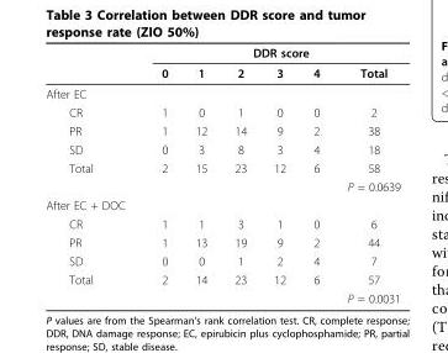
<table><thead><tr><td rowspan="2"></td><td colspan="6">DDR score</td></tr><tr><td>0</td><td>1</td><td>2</td><td>3</td><td>4</td><td>Total</td></tr></thead><tbody><tr><td colspan="7">After EC</td></tr><tr><td>CR</td><td>1</td><td>0</td><td>1</td><td>0</td><td>0</td><td>2</td></tr><tr><td>PR</td><td>1</td><td>12</td><td>14</td><td>9</td><td>2</td><td>38</td></tr><tr><td>SD</td><td>0</td><td>3</td><td>8</td><td>3</td><td>4</td><td>18</td></tr><tr><td rowspan="2">Total</td><td>2</td><td>15</td><td>23</td><td>12</td><td>6</td><td>58</td></tr><tr><td></td><td></td><td></td><td></td><td></td><td>P = 0.0639</td></tr><tr><td colspan="7">After EC + DOC</td></tr><tr><td>CR</td><td>1</td><td>1</td><td>3</td><td>1</td><td>0</td><td>6</td></tr><tr><td>PR</td><td>1</td><td>13</td><td>19</td><td>9</td><td>2</td><td>44</td></tr><tr><td>SD</td><td>0</td><td>0</td><td>1</td><td>2</td><td>4</td><td>7</td></tr><tr><td rowspan="2">Total</td><td>2</td><td>14</td><td>23</td><td>12</td><td>6</td><td>57</td></tr><tr><td></td><td></td><td></td><td></td><td></td><td>P = 0.0031</td></tr></tbody></table>